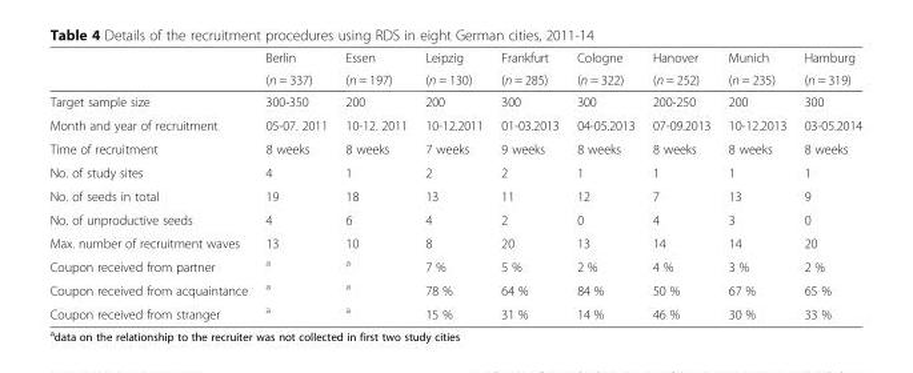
<table><thead><tr><td rowspan="2"></td><td rowspan="2">Berlin (n = 337)</td><td rowspan="2">Essen (n = 197)</td><td rowspan="2">Leipzig (n = 130)</td><td rowspan="2">Frankfurt (n = 285)</td><td rowspan="2">Cologne (n = 322)</td><td rowspan="2">Hanover (n = 252)</td><td rowspan="2">Munich (n = 235)</td><td rowspan="2">Hamburg (n = 319)</td></tr><tr></tr></thead><tbody><tr><td>Target sample size</td><td>300-350</td><td>200</td><td>200</td><td>300</td><td>300</td><td>200-250</td><td>200</td><td>300</td></tr><tr><td>Month and year of recruitment</td><td>05-07. 2011</td><td>10-12. 2011</td><td>10-12.2011</td><td>01-03.2013</td><td>04-05.2013</td><td>07-09.2013</td><td>10-12.2013</td><td>03-05.2014</td></tr><tr><td>Time of recruitment</td><td>8 weeks</td><td>8 weeks</td><td>7 weeks</td><td>9 weeks</td><td>8 weeks</td><td>8 weeks</td><td>8 weeks</td><td>8 weeks</td></tr><tr><td>No. of study sites</td><td>4</td><td>1</td><td>2</td><td>2</td><td>1</td><td>1</td><td>1</td><td>1</td></tr><tr><td>No. of seeds in total</td><td>19</td><td>18</td><td>13</td><td>11</td><td>12</td><td>7</td><td>13</td><td>9</td></tr><tr><td>No. of unproductive seeds</td><td>4</td><td>6</td><td>4</td><td>2</td><td>0</td><td>4</td><td>3</td><td>0</td></tr><tr><td>Max. number of recruitment waves</td><td>13</td><td>10</td><td>8</td><td>20</td><td>13</td><td>14</td><td>14</td><td>20</td></tr><tr><td>Coupon received from partner</td><td><sup>a</sup></td><td><sup>a</sup></td><td>7 %</td><td>5 %</td><td>2 %</td><td>4 %</td><td>3 %</td><td>2 %</td></tr><tr><td>Coupon received from acquaintance</td><td><sup>a</sup></td><td><sup>a</sup></td><td>78 %</td><td>64 %</td><td>84 %</td><td>50 %</td><td>67 %</td><td>65 %</td></tr><tr><td>Coupon received from stranger</td><td><sup>a</sup></td><td><sup>a</sup></td><td>15 %</td><td>31 %</td><td>14 %</td><td>46 %</td><td>30 %</td><td>33 %</td></tr></tbody></table>